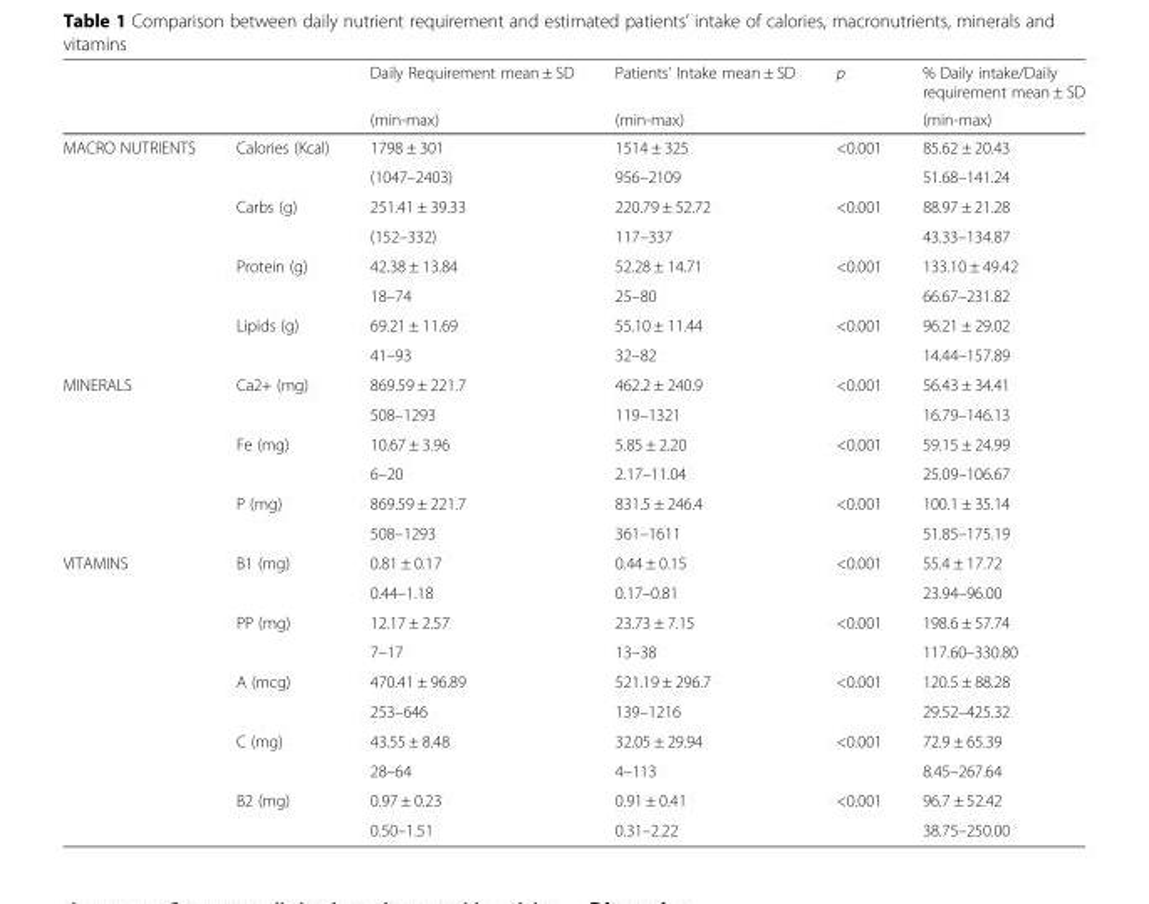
<table><thead><tr><td rowspan="2"></td><td rowspan="2"></td><td rowspan="2">Daily Requirement mean ± SD (min-max)</td><td rowspan="2">Patients’ Intake mean ± SD (min-max)</td><td rowspan="2">p</td><td rowspan="2">% Daily intake/Daily requirement mean ± SD (min-max)</td></tr><tr></tr></thead><tbody><tr><td rowspan="8">MACRO NUTRIENTS</td><td rowspan="2">Calories (Kcal)</td><td>1798 ± 301</td><td>1514 ± 325</td><td rowspan="2">&lt;0.001</td><td>85.62 ± 20.43</td></tr><tr><td>(1047–2403)</td><td>956–2109</td><td>51.68–141.24</td></tr><tr><td rowspan="2">Carbs (g)</td><td>251.41 ± 39.33</td><td>220.79 ± 52.72</td><td rowspan="2">&lt;0.001</td><td>88.97 ± 21.28</td></tr><tr><td>(152–332)</td><td>117–337</td><td>43.33–134.87</td></tr><tr><td rowspan="2">Protein (g)</td><td>42.38 ± 13.84</td><td>52.28 ± 14.71</td><td rowspan="2">&lt;0.001</td><td>133.10 ± 49.42</td></tr><tr><td>18–74</td><td>25–80</td><td>66.67–231.82</td></tr><tr><td rowspan="2">Lipids (g)</td><td>69.21 ± 11.69</td><td>55.10 ± 11.44</td><td rowspan="2">&lt;0.001</td><td>96.21 ± 29.02</td></tr><tr><td>41–93</td><td>32–82</td><td>14.44–157.89</td></tr><tr><td rowspan="6">MINERALS</td><td rowspan="2">Ca2+ (mg)</td><td>869.59 ± 221.7</td><td>462.2 ± 240.9</td><td rowspan="2">&lt;0.001</td><td>56.43 ± 34.41</td></tr><tr><td>508–1293</td><td>119–1321</td><td>16.79–146.13</td></tr><tr><td rowspan="2">Fe (mg)</td><td>10.67 ± 3.96</td><td>5.85 ± 2.20</td><td rowspan="2">&lt;0.001</td><td>59.15 ± 24.99</td></tr><tr><td>6–20</td><td>2.17–11.04</td><td>25.09–106.67</td></tr><tr><td rowspan="2">P (mg)</td><td>869.59 ± 221.7</td><td>831.5 ± 246.4</td><td rowspan="2">&lt;0.001</td><td>100.1 ± 35.14</td></tr><tr><td>508–1293</td><td>361–1611</td><td>51.85–175.19</td></tr><tr><td rowspan="10">VITAMINS</td><td rowspan="2">B1 (mg)</td><td>0.81 ± 0.17</td><td>0.44 ± 0.15</td><td rowspan="2">&lt;0.001</td><td>55.4 ± 17.72</td></tr><tr><td>0.44–1.18</td><td>0.17–0.81</td><td>23.94–96.00</td></tr><tr><td rowspan="2">PP (mg)</td><td>12.17 ± 2.57</td><td>23.73 ± 7.15</td><td rowspan="2">&lt;0.001</td><td>198.6 ± 57.74</td></tr><tr><td>7–17</td><td>13–38</td><td>117.60–330.80</td></tr><tr><td rowspan="2">A (mcg)</td><td>470.41 ± 96.89</td><td>521.19 ± 296.7</td><td rowspan="2">&lt;0.001</td><td>120.5 ± 88.28</td></tr><tr><td>253–646</td><td>139–1216</td><td>29.52–425.32</td></tr><tr><td rowspan="2">C (mg)</td><td>43.55 ± 8.48</td><td>32.05 ± 29.94</td><td rowspan="2">&lt;0.001</td><td>72.9 ± 65.39</td></tr><tr><td>28–64</td><td>4–113</td><td>8.45–267.64</td></tr><tr><td rowspan="2">B2 (mg)</td><td>0.97 ± 0.23</td><td>0.91 ± 0.41</td><td rowspan="2">&lt;0.001</td><td>96.7 ± 52.42</td></tr><tr><td>0.50–1.51</td><td>0.31–2.22</td><td>38.75–250.00</td></tr></tbody></table>